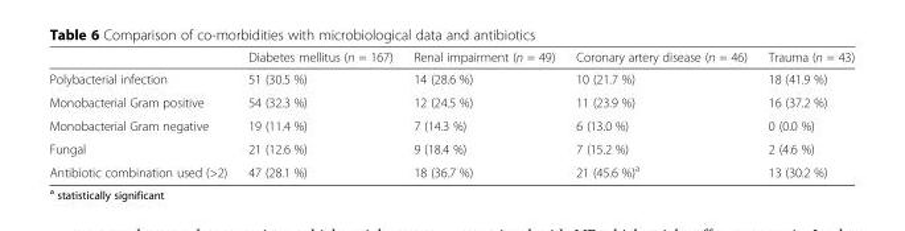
<table><thead><tr><td></td><td>Diabetes mellitus (n = 167)</td><td>Renal impairment (n = 49)</td><td>Coronary artery disease (n = 46)</td><td>Trauma (n = 43)</td></tr></thead><tbody><tr><td>Polybacterial infection</td><td>51 (30.5 %)</td><td>14 (28.6 %)</td><td>10 (21.7 %)</td><td>18 (41.9 %)</td></tr><tr><td>Monobacterial Gram positive</td><td>54 (32.3 %)</td><td>12 (24.5 %)</td><td>11 (23.9 %)</td><td>16 (37.2 %)</td></tr><tr><td>Monobacterial Gram negative</td><td>19 (11.4 %)</td><td>7 (14.3 %)</td><td>6 (13.0 %)</td><td>0 (0.0 %)</td></tr><tr><td>Fungal</td><td>21 (12.6 %)</td><td>9 (18.4 %)</td><td>7 (15.2 %)</td><td>2 (4.6 %)</td></tr><tr><td>Antibiotic combination used (&gt;2)</td><td>47 (28.1 %)</td><td>18 (36.7 %)</td><td>21 (45.6 %)<sup>a</sup></td><td>13 (30.2 %)</td></tr></tbody></table>